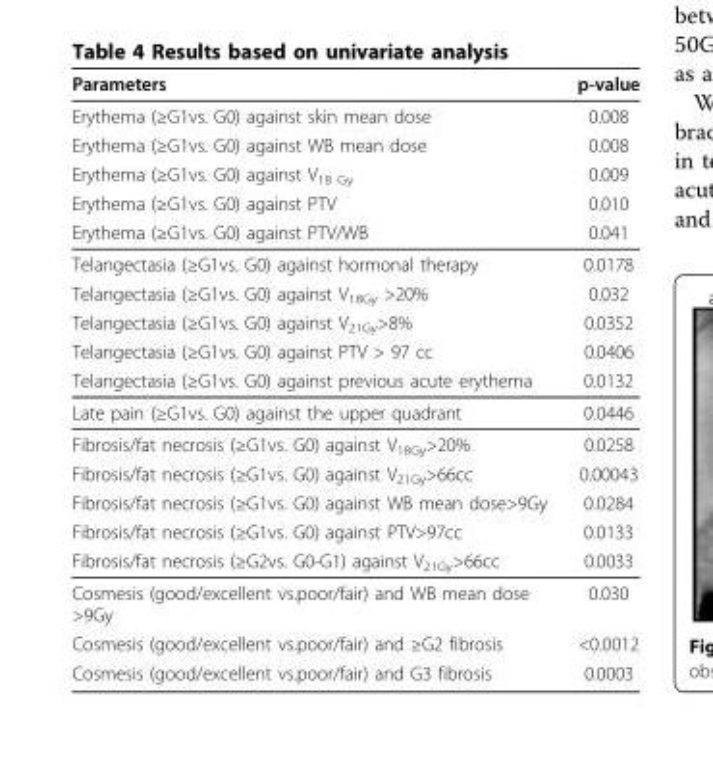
<table><thead><tr><td>Parameters</td><td>p-value</td></tr></thead><tbody><tr><td>Erythema (≥G1vs. G0) against skin mean dose</td><td>0.008</td></tr><tr><td>Erythema (≥G1vs. G0) against WB mean dose</td><td>0.008</td></tr><tr><td>Erythema (≥G1vs. G0) against V<sub>18 Gy</sub></td><td>0.009</td></tr><tr><td>Erythema (≥G1vs. G0) against PTV</td><td>0.010</td></tr><tr><td>Erythema (≥G1vs. G0) against PTV/WB</td><td>0.041</td></tr><tr><td>Telangectasia (≥G1vs. G0) against hormonal therapy</td><td>0.0178</td></tr><tr><td>Telangectasia (≥G1vs. G0) against V<sub>18Gy</sub> &gt;20%</td><td>0.032</td></tr><tr><td>Telangectasia (≥G1vs. G0) against V<sub>21Gy</sub>&gt;8%</td><td>0.0352</td></tr><tr><td>Telangectasia (≥G1vs. G0) against PTV &gt; 97 cc</td><td>0.0406</td></tr><tr><td>Telangectasia (≥G1vs. G0) against previous acute erythema</td><td>0.0132</td></tr><tr><td>Late pain (≥G1vs. G0) against the upper quadrant</td><td>0.0446</td></tr><tr><td>Fibrosis/fat necrosis (≥G1vs. G0) against V<sub>18Gy</sub>&gt;20%</td><td>0.0258</td></tr><tr><td>Fibrosis/fat necrosis (≥G1vs. G0) against V<sub>21Gy</sub>&gt;66cc</td><td>0.00043</td></tr><tr><td>Fibrosis/fat necrosis (≥G1vs. G0) against WB mean dose&gt;9Gy</td><td>0.0284</td></tr><tr><td>Fibrosis/fat necrosis (≥G1vs. G0) against PTV&gt;97cc</td><td>0.0133</td></tr><tr><td>Fibrosis/fat necrosis (≥G2vs. G0-G1) against V<sub>21Gy</sub>&gt;66cc</td><td>0.0033</td></tr><tr><td>Cosmesis (good/excellent vs.poor/fair) and WB mean dose &gt;9Gy</td><td>0.030</td></tr><tr><td>Cosmesis (good/excellent vs.poor/fair) and ≥G2 fibrosis</td><td>&lt;0.0012</td></tr><tr><td>Cosmesis (good/excellent vs.poor/fair) and G3 fibrosis</td><td>0.0003</td></tr></tbody></table>